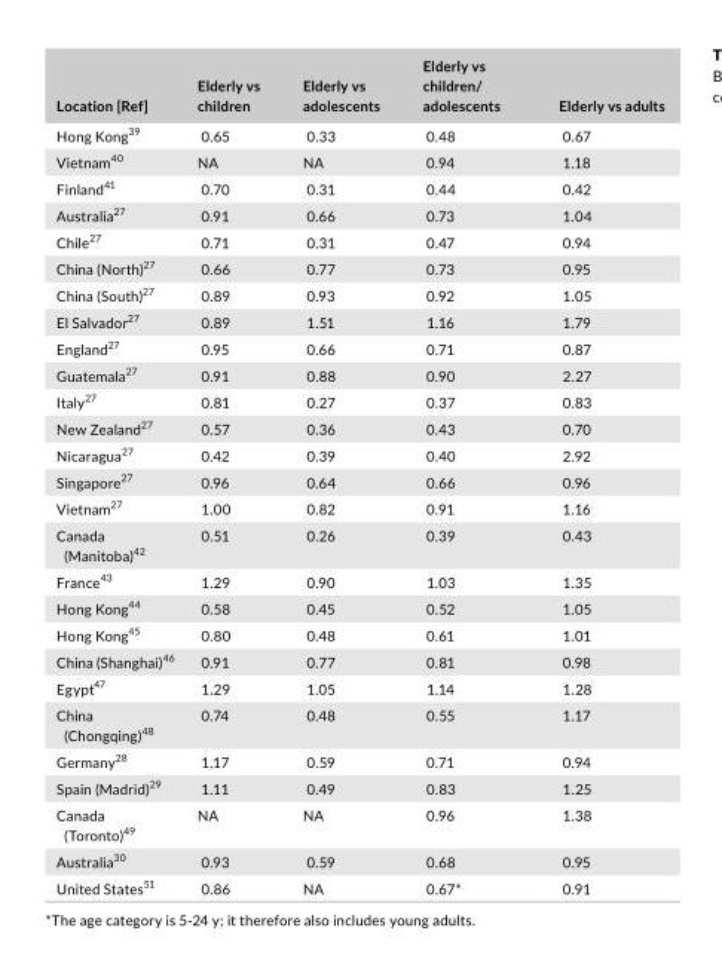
<table><thead><tr><td>Location [Ref]</td><td>Elderly vs children</td><td>Elderly vs adolescents</td><td>Elderly vs children/ adolescents</td><td>Elderly vs adults</td></tr></thead><tbody><tr><td>Hong Kong<sup>39</sup></td><td>0.65</td><td>0.33</td><td>0.48</td><td>0.67</td></tr><tr><td>Vietnam<sup>40</sup></td><td>NA</td><td>NA</td><td>0.94</td><td>1.18</td></tr><tr><td>Finland<sup>41</sup></td><td>0.70</td><td>0.31</td><td>0.44</td><td>0.42</td></tr><tr><td>Australia<sup>27</sup></td><td>0.91</td><td>0.66</td><td>0.73</td><td>1.04</td></tr><tr><td>Chile<sup>27</sup></td><td>0.71</td><td>0.31</td><td>0.47</td><td>0.94</td></tr><tr><td>China (North)<sup>27</sup></td><td>0.66</td><td>0.77</td><td>0.73</td><td>0.95</td></tr><tr><td>China (South)<sup>27</sup></td><td>0.89</td><td>0.93</td><td>0.92</td><td>1.05</td></tr><tr><td>El Salvador<sup>27</sup></td><td>0.89</td><td>1.51</td><td>1.16</td><td>1.79</td></tr><tr><td>England<sup>27</sup></td><td>0.95</td><td>0.66</td><td>0.71</td><td>0.87</td></tr><tr><td>Guatemala<sup>27</sup></td><td>0.91</td><td>0.88</td><td>0.90</td><td>2.27</td></tr><tr><td>Italy<sup>27</sup></td><td>0.81</td><td>0.27</td><td>0.37</td><td>0.83</td></tr><tr><td>New Zealand<sup>27</sup></td><td>0.57</td><td>0.36</td><td>0.43</td><td>0.70</td></tr><tr><td>Nicaragua<sup>27</sup></td><td>0.42</td><td>0.39</td><td>0.40</td><td>2.92</td></tr><tr><td>Singapore<sup>27</sup></td><td>0.96</td><td>0.64</td><td>0.66</td><td>0.96</td></tr><tr><td>Vietnam<sup>27</sup></td><td>1.00</td><td>0.82</td><td>0.91</td><td>1.16</td></tr><tr><td>Canada (Manitoba)<sup>42</sup></td><td>0.51</td><td>0.26</td><td>0.39</td><td>0.43</td></tr><tr><td>France<sup>43</sup></td><td>1.29</td><td>0.90</td><td>1.03</td><td>1.35</td></tr><tr><td>Hong Kong<sup>44</sup></td><td>0.58</td><td>0.45</td><td>0.52</td><td>1.05</td></tr><tr><td>Hong Kong<sup>45</sup></td><td>0.80</td><td>0.48</td><td>0.61</td><td>1.01</td></tr><tr><td>China (Shanghai)<sup>46</sup></td><td>0.91</td><td>0.77</td><td>0.81</td><td>0.98</td></tr><tr><td>Egypt<sup>47</sup></td><td>1.29</td><td>1.05</td><td>1.14</td><td>1.28</td></tr><tr><td>China (Chongqing)<sup>48</sup></td><td>0.74</td><td>0.48</td><td>0.55</td><td>1.17</td></tr><tr><td>Germany<sup>28</sup></td><td>1.17</td><td>0.59</td><td>0.71</td><td>0.94</td></tr><tr><td>Spain (Madrid)<sup>29</sup></td><td>1.11</td><td>0.49</td><td>0.83</td><td>1.25</td></tr><tr><td>Canada (Toronto)<sup>49</sup></td><td>NA</td><td>NA</td><td>0.96</td><td>1.38</td></tr><tr><td>Australia<sup>30</sup></td><td>0.93</td><td>0.59</td><td>0.68</td><td>0.95</td></tr><tr><td>United States<sup>51</sup></td><td>0.86</td><td>NA</td><td>0.67*</td><td>0.91</td></tr></tbody></table>